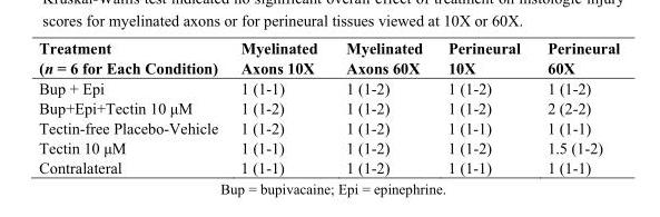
<table><thead><tr><td>Treatment (n = 6 for Each Condition)</td><td>Myelinated Axons 10X</td><td>Myelinated Axons 60X</td><td>Perineural 10X</td><td>Perineural 60X</td></tr></thead><tbody><tr><td>Bup + Epi</td><td>1 (1-1)</td><td>1 (1-2)</td><td>1 (1-2)</td><td>1 (1-2)</td></tr><tr><td>Bup+Epi+Tectin 10 μM</td><td>1 (1-2)</td><td>1 (1-2)</td><td>1 (1-2)</td><td>2 (2-2)</td></tr><tr><td>Tectin-free Placebo-Vehicle</td><td>1 (1-2)</td><td>1 (1-2)</td><td>1 (1-1)</td><td>1 (1-1)</td></tr><tr><td>Tectin 10 μM</td><td>1 (1-1)</td><td>1 (1-2)</td><td>1 (1-2)</td><td>1.5 (1-2)</td></tr><tr><td>Contralateral</td><td>1 (1-1)</td><td>1 (1-2)</td><td>1 (1-1)</td><td>1 (1-1)</td></tr></tbody></table>